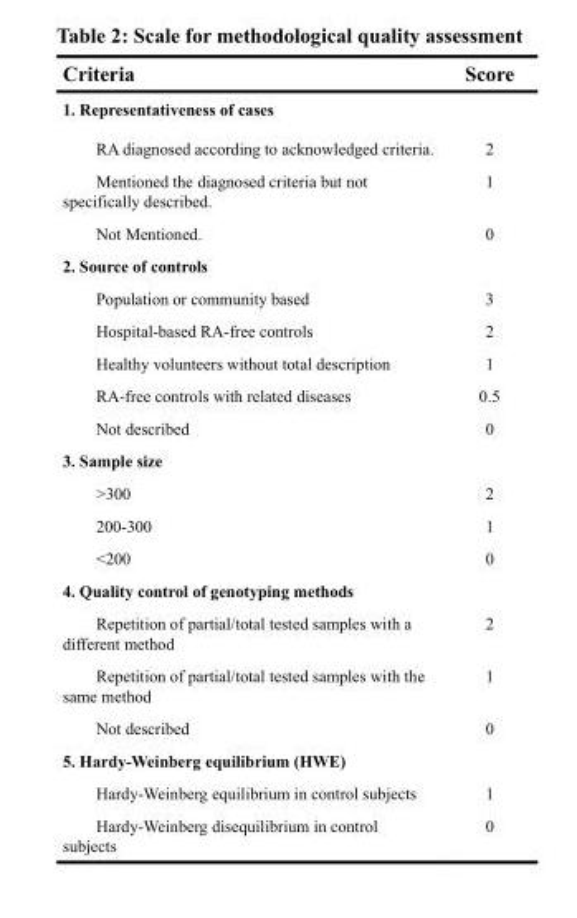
<table><thead><tr><td>Criteria</td><td>Score</td></tr></thead><tbody><tr><td colspan="2">1. Representativeness of cases</td></tr><tr><td>RA diagnosed according to acknowledged criteria.</td><td>2</td></tr><tr><td>Mentioned the diagnosed criteria but not specifically described.</td><td>1</td></tr><tr><td>Not Mentioned.</td><td>0</td></tr><tr><td colspan="2">2. Source of controls</td></tr><tr><td>Population or community based</td><td>3</td></tr><tr><td>Hospital-based RA-free controls</td><td>2</td></tr><tr><td>Healthy volunteers without total description</td><td>1</td></tr><tr><td>RA-free controls with related diseases</td><td>0.5</td></tr><tr><td>Not described</td><td>0</td></tr><tr><td colspan="2">3. Sample size</td></tr><tr><td>&gt;300</td><td>2</td></tr><tr><td>200-300</td><td>1</td></tr><tr><td>&lt;200</td><td>0</td></tr><tr><td colspan="2">4. Quality control of genotyping methods</td></tr><tr><td>Repetition of partial/total tested samples with a different method</td><td>2</td></tr><tr><td>Repetition of partial/total tested samples with the same method</td><td>1</td></tr><tr><td>Not described</td><td>0</td></tr><tr><td colspan="2">5. Hardy-Weinberg equilibrium (HWE)</td></tr><tr><td>Hardy-Weinberg equilibrium in control subjects</td><td>1</td></tr><tr><td>Hardy-Weinberg disequilibrium in control subjects</td><td>0</td></tr></tbody></table>